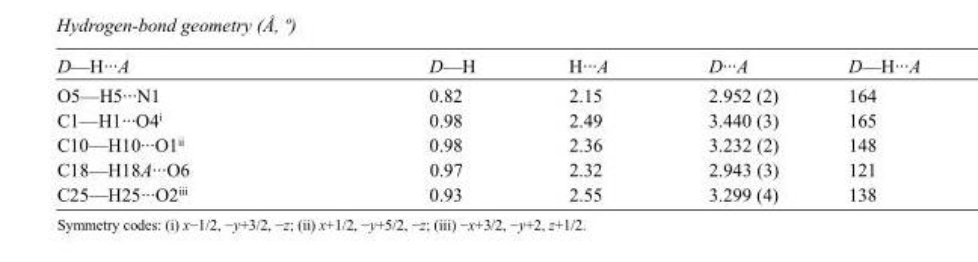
<table><tbody><tr><td>D—H···A</td><td>D—H</td><td>H···A</td><td>D···A</td><td>D—H···A</td></tr><tr><td>O5—H5···N1</td><td>0.82</td><td>2.15</td><td>2.952 (2)</td><td>164</td></tr><tr><td>C1—H1···O4<sup>i</sup></td><td>0.98</td><td>2.49</td><td>3.440 (3)</td><td>165</td></tr><tr><td>C10—H10···O1<sup>ii</sup></td><td>0.98</td><td>2.36</td><td>3.232 (2)</td><td>148</td></tr><tr><td>C18—H18A···O6</td><td>0.97</td><td>2.32</td><td>2.943 (3)</td><td>121</td></tr><tr><td>C25—H25···O2<sup>iii</sup></td><td>0.93</td><td>2.55</td><td>3.299 (4)</td><td>138</td></tr></tbody></table>